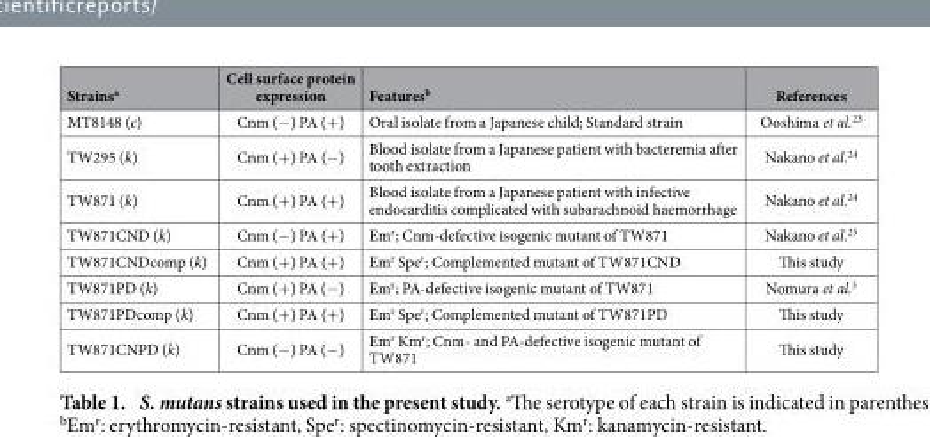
<table><thead><tr><td>Strains<sup>a</sup></td><td>Cell surface protein expression</td><td>Features<sup>b</sup></td><td>References</td></tr></thead><tbody><tr><td>MT8148 (c)</td><td>Cnm (− ) PA (+ )</td><td>Oral isolate from a Japanese child; Standard strain</td><td>Ooshima et al.<sup>23</sup></td></tr><tr><td>TW295 (k)</td><td>Cnm (+ ) PA (− )</td><td>Blood isolate from a Japanese patient with bacteremia after tooth extraction</td><td>Nakano et al.<sup>24</sup></td></tr><tr><td>TW871 (k)</td><td>Cnm (+ ) PA (+ )</td><td>Blood isolate from a Japanese patient with infective endocarditis complicated with subarachnoid haemorrhage</td><td>Nakano et al.<sup>24</sup></td></tr><tr><td>TW871CND (k)</td><td>Cnm (− ) PA (+ )</td><td>Em<sup>r</sup>; Cnm-defective isogenic mutant of TW871</td><td>Nakano et al.<sup>25</sup></td></tr><tr><td>TW871CNDcomp (k)</td><td>Cnm (+ ) PA (+ )</td><td>Em<sup>r</sup> Spe<sup>r</sup>; Complemented mutant of TW871CND</td><td>This study</td></tr><tr><td>TW871PD (k)</td><td>Cnm (+ ) PA (− )</td><td>Em<sup>r</sup>; PA-defective isogenic mutant of TW871</td><td>Nomura et al.<sup>3</sup></td></tr><tr><td>TW871PDcomp (k)</td><td>Cnm (+ ) PA (+ )</td><td>Em<sup>r</sup> Spe<sup>r</sup>; Complemented mutant of TW871PD</td><td>This study</td></tr><tr><td>TW871CNPD (k)</td><td>Cnm (− ) PA (− )</td><td>Em<sup>r</sup> Km<sup>r</sup>; Cnm- and PA-defective isogenic mutant of TW871</td><td>This study</td></tr></tbody></table>